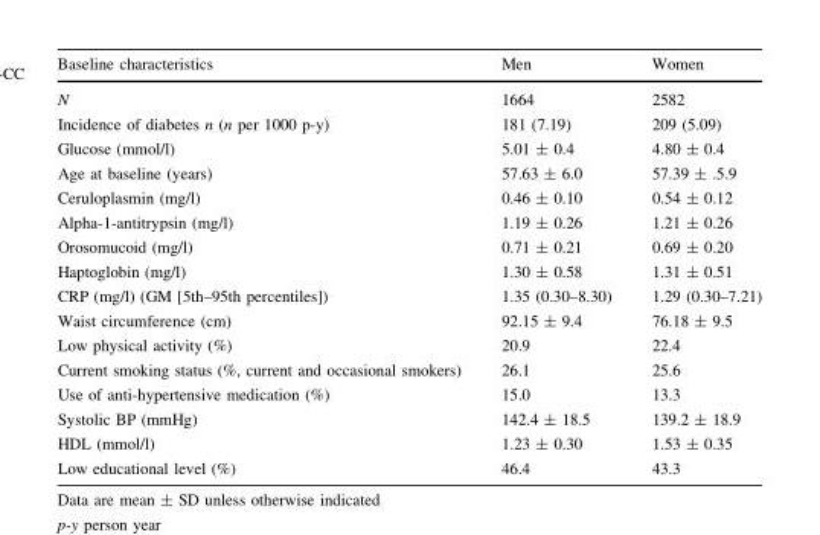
<table><thead><tr><td>Baseline characteristics</td><td>Men</td><td>Women</td></tr></thead><tbody><tr><td>N</td><td>1664</td><td>2582</td></tr><tr><td>Incidence of diabetes n (n per 1000 p-y)</td><td>181 (7.19)</td><td>209 (5.09)</td></tr><tr><td>Glucose (mmol/l)</td><td>5.01 ± 0.4</td><td>4.80 ± 0.4</td></tr><tr><td>Age at baseline (years)</td><td>57.63 ± 6.0</td><td>57.39 ± .5.9</td></tr><tr><td>Ceruloplasmin (mg/l)</td><td>0.46 ± 0.10</td><td>0.54 ± 0.12</td></tr><tr><td>Alpha-1-antitrypsin (mg/l)</td><td>1.19 ± 0.26</td><td>1.21 ± 0.26</td></tr><tr><td>Orosomucoid (mg/l)</td><td>0.71 ± 0.21</td><td>0.69 ± 0.20</td></tr><tr><td>Haptoglobin (mg/l)</td><td>1.30 ± 0.58</td><td>1.31 ± 0.51</td></tr><tr><td>CRP (mg/l) (GM [5th–95th percentiles])</td><td>1.35 (0.30–8.30)</td><td>1.29 (0.30–7.21)</td></tr><tr><td>Waist circumference (cm)</td><td>92.15 ± 9.4</td><td>76.18 ± 9.5</td></tr><tr><td>Low physical activity (%)</td><td>20.9</td><td>22.4</td></tr><tr><td>Current smoking status (%, current and occasional smokers)</td><td>26.1</td><td>25.6</td></tr><tr><td>Use of anti-hypertensive medication (%)</td><td>15.0</td><td>13.3</td></tr><tr><td>Systolic BP (mmHg)</td><td>142.4 ± 18.5</td><td>139.2 ± 18.9</td></tr><tr><td>HDL (mmol/l)</td><td>1.23 ± 0.30</td><td>1.53 ± 0.35</td></tr><tr><td>Low educational level (%)</td><td>46.4</td><td>43.3</td></tr></tbody></table>